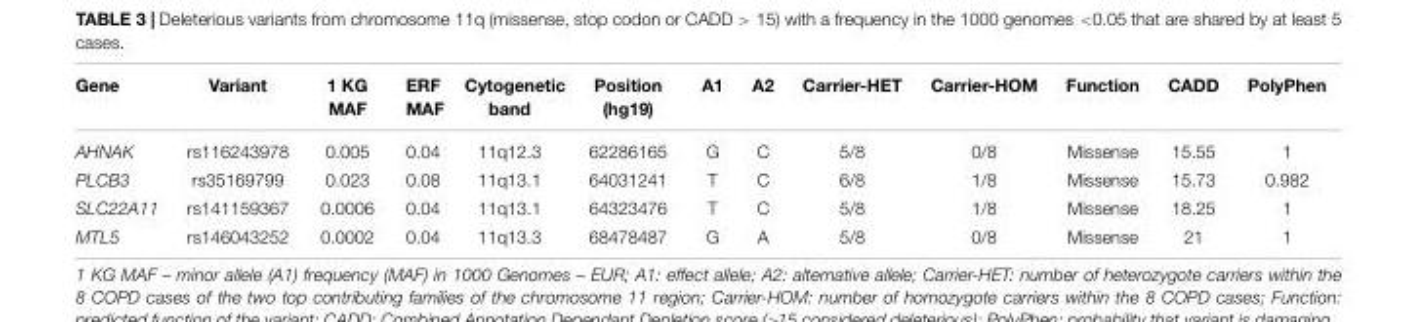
<table><thead><tr><td>Gene</td><td>Variant</td><td>1 KG MAF</td><td>ERF MAF</td><td>Cytogenetic band</td><td>Position (hg19)</td><td>A1</td><td>A2</td><td>Carrier-HET</td><td>Carrier-HOM</td><td>Function</td><td>CADD</td><td>PolyPhen</td></tr></thead><tbody><tr><td>AHNAK</td><td>rs116243978</td><td>0.005</td><td>0.04</td><td>11q12.3</td><td>62286165</td><td>G</td><td>C</td><td>5/8</td><td>0/8</td><td>Missense</td><td>15.55</td><td>1</td></tr><tr><td>PLCB3</td><td>rs35169799</td><td>0.023</td><td>0.08</td><td>11q13.1</td><td>64031241</td><td>T</td><td>C</td><td>6/8</td><td>1/8</td><td>Missense</td><td>15.73</td><td>0.982</td></tr><tr><td>SLC22A11</td><td>rs141159367</td><td>0.0006</td><td>0.04</td><td>11q13.1</td><td>64323476</td><td>T</td><td>C</td><td>5/8</td><td>1/8</td><td>Missense</td><td>18.25</td><td>1</td></tr><tr><td>MTL5</td><td>rs146043252</td><td>0.0002</td><td>0.04</td><td>11q13.3</td><td>68478487</td><td>G</td><td>A</td><td>5/8</td><td>0/8</td><td>Missense</td><td>21</td><td>1</td></tr></tbody></table>